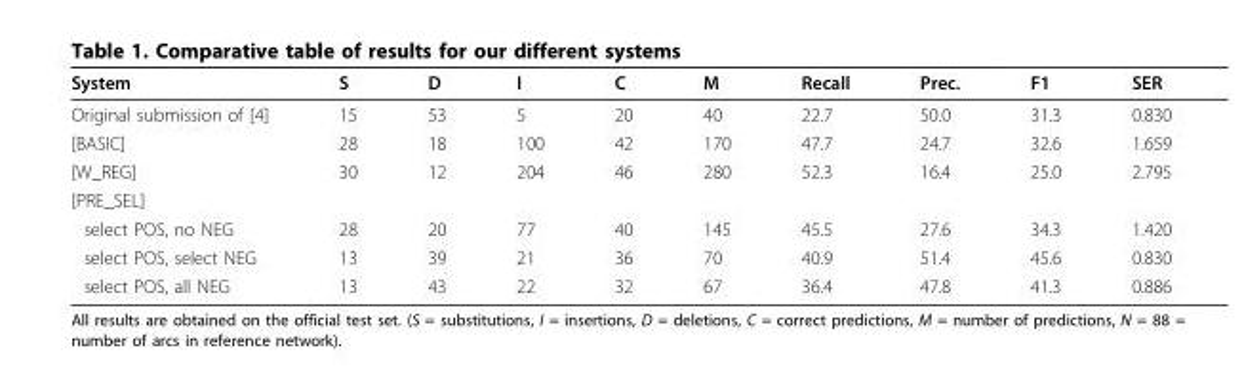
<table><thead><tr><td>System</td><td>S</td><td>D</td><td>I</td><td>C</td><td>M</td><td>Recall</td><td>Prec.</td><td>F1</td><td>SER</td></tr></thead><tbody><tr><td>Original submission of [4]</td><td>15</td><td>53</td><td>5</td><td>20</td><td>40</td><td>22.7</td><td>50.0</td><td>31.3</td><td>0.830</td></tr><tr><td>[BASIC]</td><td>28</td><td>18</td><td>100</td><td>42</td><td>170</td><td>47.7</td><td>24.7</td><td>32.6</td><td>1.659</td></tr><tr><td>[W_REG]</td><td>30</td><td>12</td><td>204</td><td>46</td><td>280</td><td>52.3</td><td>16.4</td><td>25.0</td><td>2.795</td></tr><tr><td colspan="10">[PRE_SEL]</td></tr><tr><td>select POS, no NEG</td><td>28</td><td>20</td><td>77</td><td>40</td><td>145</td><td>45.5</td><td>27.6</td><td>34.3</td><td>1.420</td></tr><tr><td>select POS, select NEG</td><td>13</td><td>39</td><td>21</td><td>36</td><td>70</td><td>40.9</td><td>51.4</td><td>45.6</td><td>0.830</td></tr><tr><td>select POS, all NEG</td><td>13</td><td>43</td><td>22</td><td>32</td><td>67</td><td>36.4</td><td>47.8</td><td>41.3</td><td>0.886</td></tr></tbody></table>